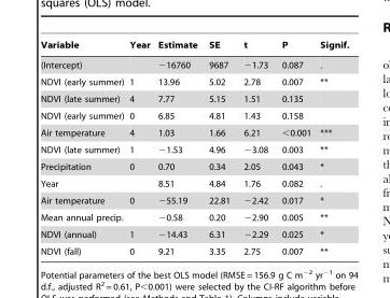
<table><thead><tr><td>Variable</td><td>Year</td><td>Estimate</td><td>SE</td><td>t</td><td>P</td><td>Signif.</td></tr></thead><tbody><tr><td>(Intercept)</td><td></td><td>−16760</td><td>9687</td><td>−1.73</td><td>0.087</td><td>.</td></tr><tr><td>NDVI (early summer)</td><td>1</td><td>13.96</td><td>5.02</td><td>2.78</td><td>0.007</td><td>**</td></tr><tr><td>NDVI (late summer)</td><td>4</td><td>7.77</td><td>5.15</td><td>1.51</td><td>0.135</td><td></td></tr><tr><td>NDVI (early summer)</td><td>0</td><td>6.85</td><td>4.81</td><td>1.43</td><td>0.158</td><td></td></tr><tr><td>Air temperature</td><td>4</td><td>1.03</td><td>1.66</td><td>6.21</td><td>&lt;0.001</td><td>***</td></tr><tr><td>NDVI (late summer)</td><td>1</td><td>−1.53</td><td>4.96</td><td>−3.08</td><td>0.003</td><td>**</td></tr><tr><td>Precipitation</td><td>0</td><td>0.70</td><td>0.34</td><td>2.05</td><td>0.043</td><td>*</td></tr><tr><td>Year</td><td></td><td>8.51</td><td>4.84</td><td>1.76</td><td>0.082</td><td>.</td></tr><tr><td>Air temperature</td><td>0</td><td>−55.19</td><td>22.81</td><td>−2.42</td><td>0.017</td><td>*</td></tr><tr><td>Mean annual precip.</td><td></td><td>−0.58</td><td>0.20</td><td>−2.90</td><td>0.005</td><td>**</td></tr><tr><td>NDVI (annual)</td><td>1</td><td>−14.43</td><td>6.31</td><td>−2.29</td><td>0.025</td><td>*</td></tr><tr><td>NDVI (fall)</td><td>0</td><td>9.21</td><td>3.35</td><td>2.75</td><td>0.007</td><td>**</td></tr></tbody></table>